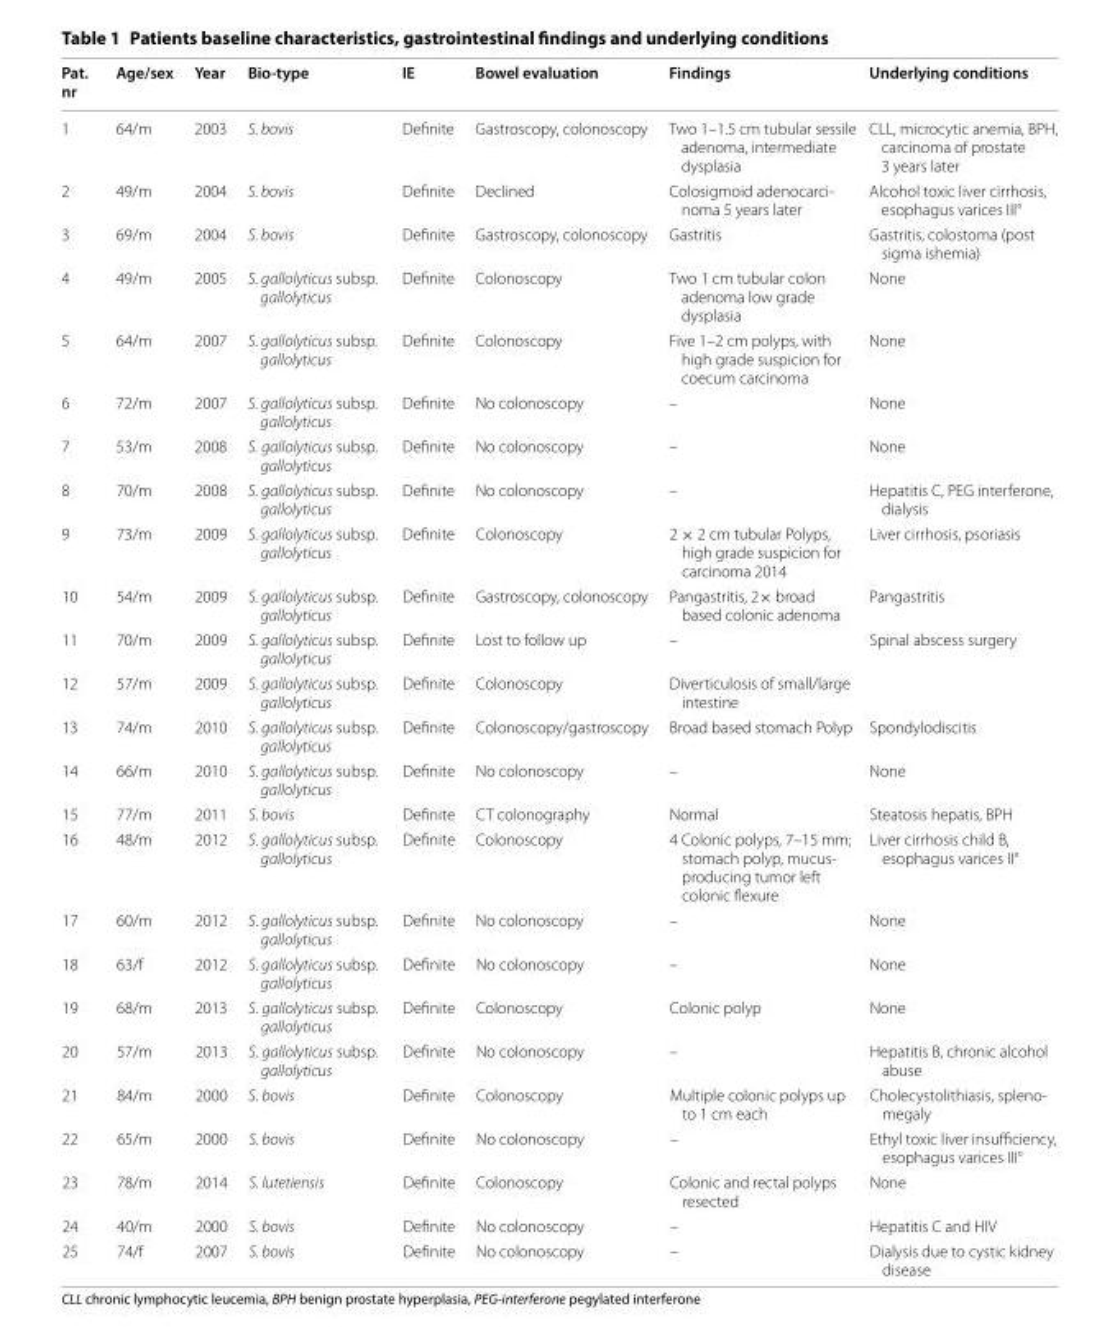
<table><thead><tr><td>Pat. nr</td><td>Age/sex</td><td>Year</td><td>Bio-type</td><td>IE</td><td>Bowel evaluation</td><td>Findings</td><td>Underlying conditions</td></tr></thead><tbody><tr><td>1</td><td>64/m</td><td>2003</td><td>S. bovis</td><td>Definite</td><td>Gastroscopy, colonoscopy</td><td>Two 1–1.5 cm tubular sessile adenoma, intermediate dysplasia</td><td>CLL, microcytic anemia, BPH, carcinoma of prostate 3 years later</td></tr><tr><td>2</td><td>49/m</td><td>2004</td><td>S. bovis</td><td>Definite</td><td>Declined</td><td>Colosigmoid adenocarci- noma 5 years later</td><td>Alcohol toxic liver cirrhosis, esophagus varices III°</td></tr><tr><td>3</td><td>69/m</td><td>2004</td><td>S. bovis</td><td>Definite</td><td>Gastroscopy, colonoscopy</td><td>Gastritis</td><td>Gastritis, colostoma (post sigma ishemia)</td></tr><tr><td>4</td><td>49/m</td><td>2005</td><td>S. gallolyticus subsp. gallolyticus</td><td>Definite</td><td>Colonoscopy</td><td>Two 1 cm tubular colon adenoma low grade dysplasia</td><td>None</td></tr><tr><td>5</td><td>64/m</td><td>2007</td><td>S. gallolyticus subsp. gallolyticus</td><td>Definite</td><td>Colonoscopy</td><td>Five 1–2 cm polyps, with high grade suspicion for coecum carcinoma</td><td>None</td></tr><tr><td>6</td><td>72/m</td><td>2007</td><td>S. gallolyticus subsp. gallolyticus</td><td>Definite</td><td>No colonoscopy</td><td>–</td><td>None</td></tr><tr><td>7</td><td>53/m</td><td>2008</td><td>S. gallolyticus subsp. gallolyticus</td><td>Definite</td><td>No colonoscopy</td><td>–</td><td>None</td></tr><tr><td>8</td><td>70/m</td><td>2008</td><td>S. gallolyticus subsp. gallolyticus</td><td>Definite</td><td>No colonoscopy</td><td>–</td><td>Hepatitis C, PEG interferone, dialysis</td></tr><tr><td>9</td><td>73/m</td><td>2009</td><td>S. gallolyticus subsp. gallolyticus</td><td>Definite</td><td>Colonoscopy</td><td>2 × 2 cm tubular Polyps, high grade suspicion for carcinoma 2014</td><td>Liver cirrhosis, psoriasis</td></tr><tr><td>10</td><td>54/m</td><td>2009</td><td>S. gallolyticus subsp. gallolyticus</td><td>Definite</td><td>Gastroscopy, colonoscopy</td><td>Pangastritis, 2× broad based colonic adenoma</td><td>Pangastritis</td></tr><tr><td>11</td><td>70/m</td><td>2009</td><td>S. gallolyticus subsp. gallolyticus</td><td>Definite</td><td>Lost to follow up</td><td>–</td><td>Spinal abscess surgery</td></tr><tr><td>12</td><td>57/m</td><td>2009</td><td>S. gallolyticus subsp. gallolyticus</td><td>Definite</td><td>Colonoscopy</td><td>Diverticulosis of small/large intestine</td><td></td></tr><tr><td>13</td><td>74/m</td><td>2010</td><td>S. gallolyticus subsp. gallolyticus</td><td>Definite</td><td>Colonoscopy/gastroscopy</td><td>Broad based stomach Polyp</td><td>Spondylodiscitis</td></tr><tr><td>14</td><td>66/m</td><td>2010</td><td>S. gallolyticus subsp. gallolyticus</td><td>Definite</td><td>No colonoscopy</td><td>–</td><td>None</td></tr><tr><td>15</td><td>77/m</td><td>2011</td><td>S. bovis</td><td>Definite</td><td>CT colonography</td><td>Normal</td><td>Steatosis hepatis, BPH</td></tr><tr><td>16</td><td>48/m</td><td>2012</td><td>S. gallolyticus subsp. gallolyticus</td><td>Definite</td><td>Colonoscopy</td><td>4 Colonic polyps, 7–15 mm; stomach polyp, mucus- producing tumor left colonic flexure</td><td>Liver cirrhosis child B, esophagus varices II°</td></tr><tr><td>17</td><td>60/m</td><td>2012</td><td>S. gallolyticus subsp. gallolyticus</td><td>Definite</td><td>No colonoscopy</td><td>–</td><td>None</td></tr><tr><td>18</td><td>63/f</td><td>2012</td><td>S. gallolyticus subsp. gallolyticus</td><td>Definite</td><td>No colonoscopy</td><td>–</td><td>None</td></tr><tr><td>19</td><td>68/m</td><td>2013</td><td>S. gallolyticus subsp. gallolyticus</td><td>Definite</td><td>Colonoscopy</td><td>Colonic polyp</td><td>None</td></tr><tr><td>20</td><td>57/m</td><td>2013</td><td>S. gallolyticus subsp. gallolyticus</td><td>Definite</td><td>No colonoscopy</td><td>–</td><td>Hepatitis B, chronic alcohol abuse</td></tr><tr><td>21</td><td>84/m</td><td>2000</td><td>S. bovis</td><td>Definite</td><td>Colonoscopy</td><td>Multiple colonic polyps up to 1 cm each</td><td>Cholecystolithiasis, spleno- megaly</td></tr><tr><td>22</td><td>65/m</td><td>2000</td><td>S. bovis</td><td>Definite</td><td>No colonoscopy</td><td>–</td><td>Ethyl toxic liver insufficiency, esophagus varices III°</td></tr><tr><td>23</td><td>78/m</td><td>2014</td><td>S. lutetiensis</td><td>Definite</td><td>Colonoscopy</td><td>Colonic and rectal polyps resected</td><td>None</td></tr><tr><td>24</td><td>40/m</td><td>2000</td><td>S. bovis</td><td>Definite</td><td>No colonoscopy</td><td>–</td><td>Hepatitis C and HIV</td></tr><tr><td>25</td><td>74/f</td><td>2007</td><td>S. bovis</td><td>Definite</td><td>No colonoscopy</td><td>–</td><td>Dialysis due to cystic kidney disease</td></tr></tbody></table>